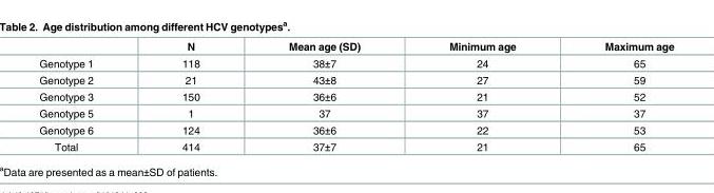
<table><thead><tr><td></td><td>N</td><td>Mean age (SD)</td><td>Minimum age</td><td>Maximum age</td></tr></thead><tbody><tr><td>Genotype 1</td><td>118</td><td>38±7</td><td>24</td><td>65</td></tr><tr><td>Genotype 2</td><td>21</td><td>43±8</td><td>27</td><td>59</td></tr><tr><td>Genotype 3</td><td>150</td><td>36±6</td><td>21</td><td>52</td></tr><tr><td>Genotype 5</td><td>1</td><td>37</td><td>37</td><td>37</td></tr><tr><td>Genotype 6</td><td>124</td><td>36±6</td><td>22</td><td>53</td></tr><tr><td>Total</td><td>414</td><td>37±7</td><td>21</td><td>65</td></tr></tbody></table>